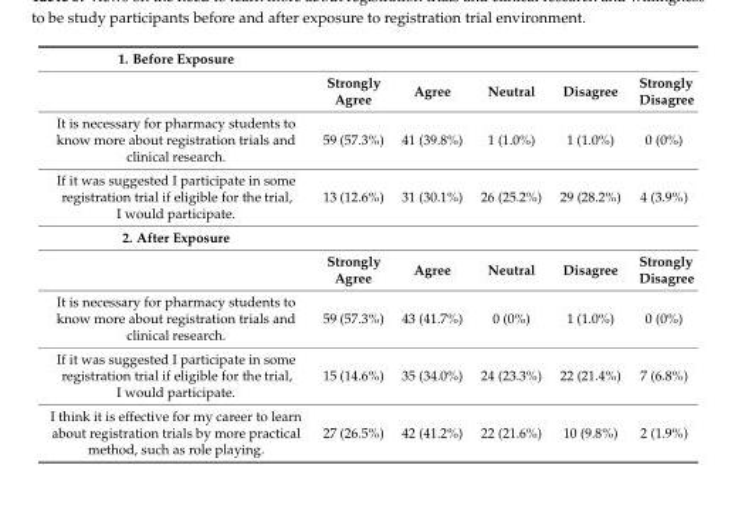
<table><tbody><tr><td colspan="6">1. Before Exposure</td></tr><tr><td></td><td>Strongly Agree</td><td>Agree</td><td>Neutral</td><td>Disagree</td><td>Strongly Disagree</td></tr><tr><td>It is necessary for pharmacy students to know more about registration trials and clinical research.</td><td>59 (57.3%)</td><td>41 (39.8%)</td><td>1 (1.0%)</td><td>1 (1.0%)</td><td>0 (0%)</td></tr><tr><td>If it was suggested I participate in some registration trial if eligible for the trial, I would participate.</td><td>13 (12.6%)</td><td>31 (30.1%)</td><td>26 (25.2%)</td><td>29 (28.2%)</td><td>4 (3.9%)</td></tr><tr><td colspan="6">2. After Exposure</td></tr><tr><td></td><td>Strongly Agree</td><td>Agree</td><td>Neutral</td><td>Disagree</td><td>Strongly Disagree</td></tr><tr><td>It is necessary for pharmacy students to know more about registration trials and clinical research.</td><td>59 (57.3%)</td><td>43 (41.7%)</td><td>0 (0%)</td><td>1 (1.0%)</td><td>0 (0%)</td></tr><tr><td>If it was suggested I participate in some registration trial if eligible for the trial, I would participate.</td><td>15 (14.6%)</td><td>35 (34.0%)</td><td>24 (23.3%)</td><td>22 (21.4%)</td><td>7 (6.8%)</td></tr><tr><td>I think it is effective for my career to learn about registration trials by more practical method, such as role playing.</td><td>27 (26.5%)</td><td>42 (41.2%)</td><td>22 (21.6%)</td><td>10 (9.8%)</td><td>2 (1.9%)</td></tr></tbody></table>